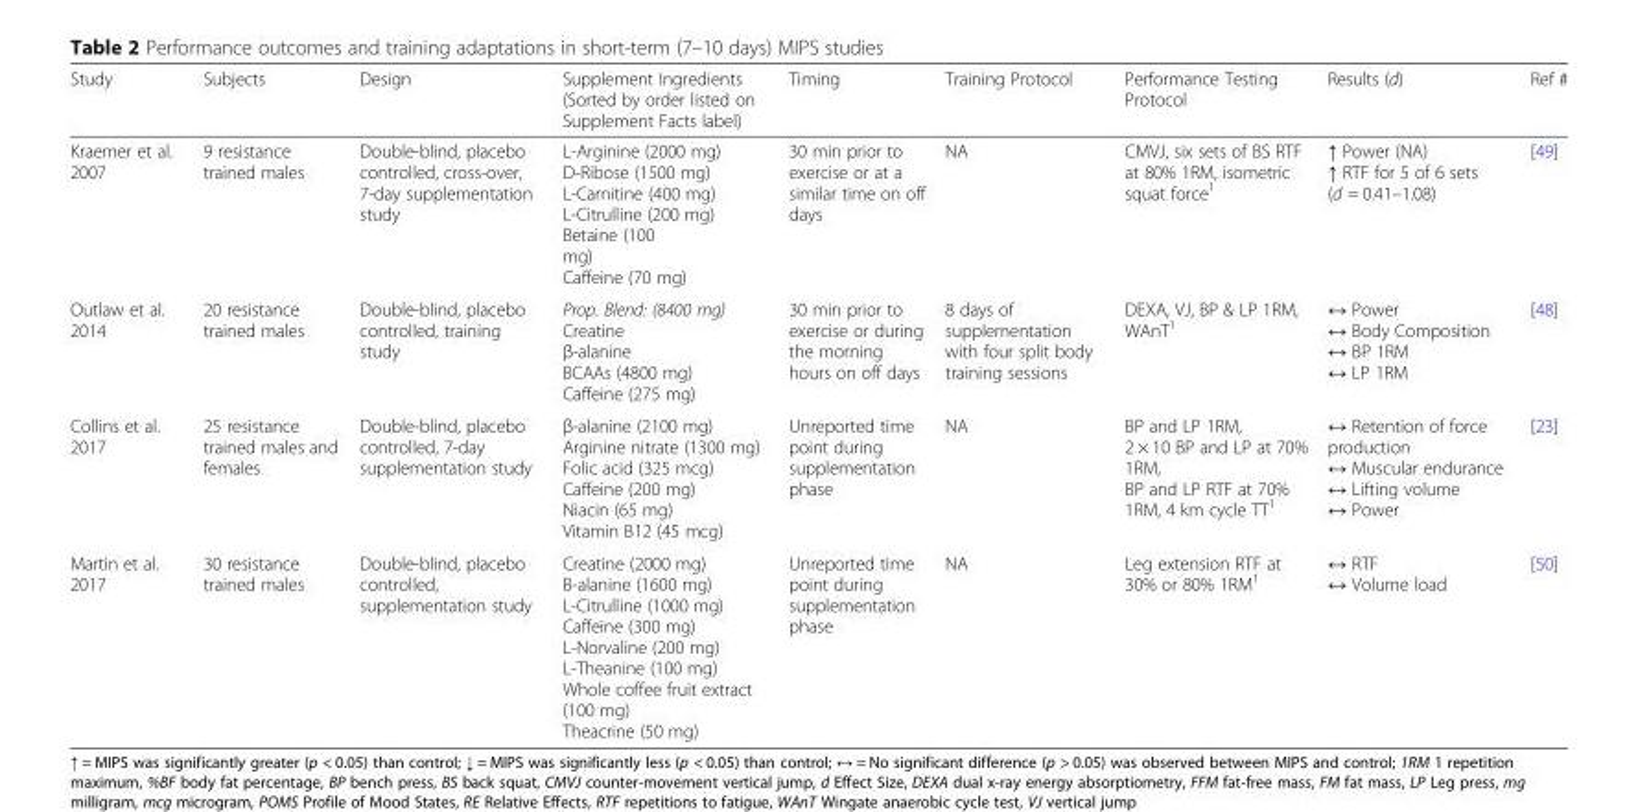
<table><thead><tr><td>Study</td><td>Subjects</td><td>Design</td><td>Supplement Ingredients (Sorted by order listed on Supplement Facts label)</td><td>Timing</td><td>Training Protocol</td><td>Performance Testing Protocol</td><td>Results (d)</td><td>Ref #</td></tr></thead><tbody><tr><td>Kraemer et al. 2007</td><td>9 resistance trained males</td><td>Double-blind, placebo controlled, cross-over, 7-day supplementation study</td><td>L-Arginine (2000 mg) D-Ribose (1500 mg) L-Carnitine (400 mg) L-Citrulline (200 mg) Betaine (100 mg) Caffeine (70 mg)</td><td>30 min prior to exercise or at a similar time on off days</td><td>NA</td><td>CMVJ, six sets of BS RTF at 80% 1RM, isometric squat force<sup>1</sup></td><td>↑ Power (NA) ↑ RTF for 5 of 6 sets (d = 0.41–1.08)</td><td>[49]</td></tr><tr><td>Outlaw et al. 2014</td><td>20 resistance trained males</td><td>Double-blind, placebo controlled, training study</td><td>Prop. Blend: (8400 mg) Creatine β-alanine BCAAs (4800 mg) Caffeine (275 mg)</td><td>30 min prior to exercise or during the morning hours on off days</td><td>8 days of supplementation with four split body training sessions</td><td>DEXA, VJ, BP &amp; LP 1RM, WAnT<sup>1</sup></td><td>↔ Power ↔ Body Composition ↔ BP 1RM ↔ LP 1RM</td><td>[48]</td></tr><tr><td>Collins et al. 2017</td><td>25 resistance trained males and females</td><td>Double-blind, placebo controlled, 7-day supplementation study</td><td>β-alanine (2100 mg) Arginine nitrate (1300 mg) Folic acid (325 mcg) Caffeine (200 mg) Niacin (65 mg) Vitamin B12 (45 mcg)</td><td>Unreported time point during supplementation phase</td><td>NA</td><td>BP and LP 1RM, 2 × 10 BP and LP at 70% 1RM, BP and LP RTF at 70% 1RM, 4 km cycle TT<sup>1</sup></td><td>↔ Retention of force production ↔ Muscular endurance ↔ Lifting volume ↔ Power</td><td>[23]</td></tr><tr><td>Martin et al. 2017</td><td>30 resistance trained males</td><td>Double-blind, placebo controlled, supplementation study</td><td>Creatine (2000 mg) Β-alanine (1600 mg) L-Citrulline (1000 mg) Caffeine (300 mg) L-Norvaline (200 mg) L-Theanine (100 mg) Whole coffee fruit extract (100 mg) Theacrine (50 mg)</td><td>Unreported time point during supplementation phase</td><td>NA</td><td>Leg extension RTF at 30% or 80% 1RM<sup>1</sup></td><td>↔ RTF ↔ Volume load</td><td>[50]</td></tr></tbody></table>